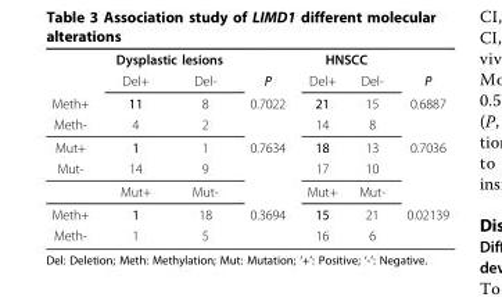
<table><thead><tr><td rowspan="2"></td><td colspan="2">Dysplastic lesions</td><td rowspan="2">P</td><td colspan="2">HNSCC</td><td rowspan="2">P</td></tr><tr><td>Del+</td><td>Del-</td><td>Del+</td><td>Del-</td></tr></thead><tbody><tr><td>Meth+</td><td>11</td><td>8</td><td>0.7022</td><td>21</td><td>15</td><td>0.6887</td></tr><tr><td>Meth-</td><td>4</td><td>2</td><td></td><td>14</td><td>8</td><td></td></tr><tr><td>Mut+</td><td>1</td><td>1</td><td>0.7634</td><td>18</td><td>13</td><td>0.7036</td></tr><tr><td rowspan="2">Mut-</td><td>14</td><td>9</td><td></td><td>17</td><td>10</td><td></td></tr><tr><td>Mut+</td><td>Mut-</td><td></td><td>Mut+</td><td>Mut-</td><td></td></tr><tr><td>Meth+</td><td>1</td><td>18</td><td>0.3694</td><td>15</td><td>21</td><td>0.02139</td></tr><tr><td>Meth-</td><td>1</td><td>5</td><td></td><td>16</td><td>6</td><td></td></tr></tbody></table>